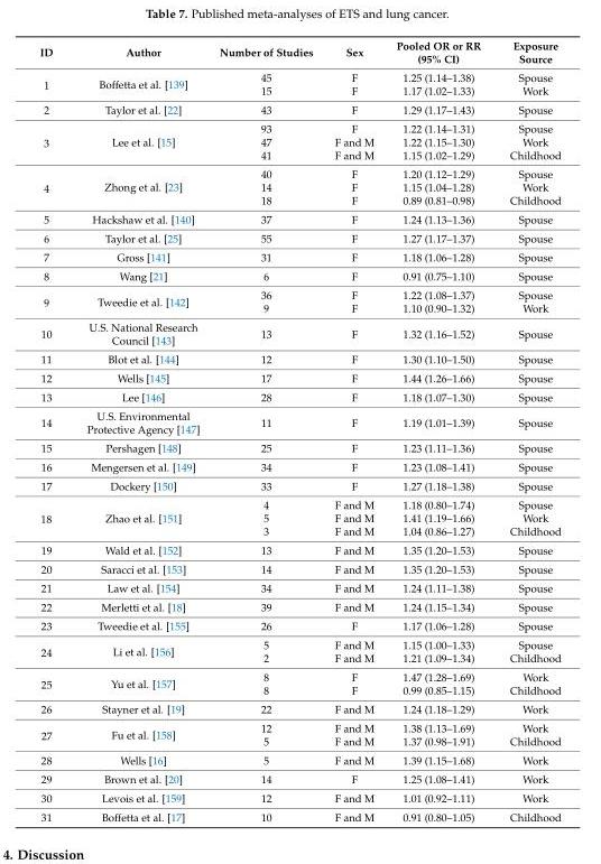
<table><thead><tr><td>ID</td><td>Author</td><td>Number of Studies</td><td>Sex</td><td>Pooled OR or RR (95% CI)</td><td>Exposure Source</td></tr></thead><tbody><tr><td rowspan="2">1</td><td rowspan="2">Boffetta et al. [139]</td><td>45</td><td>F</td><td>1.25 (1.14–1.38)</td><td>Spouse</td></tr><tr><td>15</td><td>F</td><td>1.17 (1.02–1.33)</td><td>Work</td></tr><tr><td>2</td><td>Taylor et al. [22]</td><td>43</td><td>F</td><td>1.29 (1.17–1.43)</td><td>Spouse</td></tr><tr><td rowspan="3">3</td><td rowspan="3">Lee et al. [15]</td><td>93</td><td>F</td><td>1.22 (1.14–1.31)</td><td>Spouse</td></tr><tr><td>47</td><td>F and M</td><td>1.22 (1.15–1.30)</td><td>Work</td></tr><tr><td>41</td><td>F and M</td><td>1.15 (1.02–1.29)</td><td>Childhood</td></tr><tr><td rowspan="3">4</td><td rowspan="3">Zhong et al. [23]</td><td>40</td><td>F</td><td>1.20 (1.12–1.29)</td><td>Spouse</td></tr><tr><td>14</td><td>F</td><td>1.15 (1.04–1.28)</td><td>Work</td></tr><tr><td>18</td><td>F</td><td>0.89 (0.81–0.98)</td><td>Childhood</td></tr><tr><td>5</td><td>Hackshaw et al. [140]</td><td>37</td><td>F</td><td>1.24 (1.13–1.36)</td><td>Spouse</td></tr><tr><td>6</td><td>Taylor et al. [25]</td><td>55</td><td>F</td><td>1.27 (1.17–1.37)</td><td>Spouse</td></tr><tr><td>7</td><td>Gross [141]</td><td>31</td><td>F</td><td>1.18 (1.06–1.28)</td><td>Spouse</td></tr><tr><td>8</td><td>Wang [21]</td><td>6</td><td>F</td><td>0.91 (0.75–1.10)</td><td>Spouse</td></tr><tr><td rowspan="2">9</td><td rowspan="2">Tweedie et al. [142]</td><td>36</td><td>F</td><td>1.22 (1.08–1.37)</td><td>Spouse</td></tr><tr><td>9</td><td>F</td><td>1.10 (0.90–1.32)</td><td>Work</td></tr><tr><td>10</td><td>U.S. National Research Council [143]</td><td>13</td><td>F</td><td>1.32 (1.16–1.52)</td><td>Spouse</td></tr><tr><td>11</td><td>Blot et al. [144]</td><td>12</td><td>F</td><td>1.30 (1.10–1.50)</td><td>Spouse</td></tr><tr><td>12</td><td>Wells [145]</td><td>17</td><td>F</td><td>1.44 (1.26–1.66)</td><td>Spouse</td></tr><tr><td>13</td><td>Lee [146]</td><td>28</td><td>F</td><td>1.18 (1.07–1.30)</td><td>Spouse</td></tr><tr><td>14</td><td>U.S. Environmental Protective Agency [147]</td><td>11</td><td>F</td><td>1.19 (1.01–1.39)</td><td>Spouse</td></tr><tr><td>15</td><td>Pershagen [148]</td><td>25</td><td>F</td><td>1.23 (1.11–1.36)</td><td>Spouse</td></tr><tr><td>16</td><td>Mengersen et al. [149]</td><td>34</td><td>F</td><td>1.23 (1.08–1.41)</td><td>Spouse</td></tr><tr><td>17</td><td>Dockery [150]</td><td>33</td><td>F</td><td>1.27 (1.18–1.38)</td><td>Spouse</td></tr><tr><td rowspan="3">18</td><td rowspan="3">Zhao et al. [151]</td><td>4</td><td>F and M</td><td>1.18 (0.80–1.74)</td><td>Spouse</td></tr><tr><td>5</td><td>F and M</td><td>1.41 (1.19–1.66)</td><td>Work</td></tr><tr><td>3</td><td>F and M</td><td>1.04 (0.86–1.27)</td><td>Childhood</td></tr><tr><td>19</td><td>Wald et al. [152]</td><td>13</td><td>F and M</td><td>1.35 (1.20–1.53)</td><td>Spouse</td></tr><tr><td>20</td><td>Saracci et al. [153]</td><td>14</td><td>F and M</td><td>1.35 (1.20–1.53)</td><td>Spouse</td></tr><tr><td>21</td><td>Law et al. [154]</td><td>34</td><td>F and M</td><td>1.24 (1.11–1.38)</td><td>Spouse</td></tr><tr><td>22</td><td>Merletti et al. [18]</td><td>39</td><td>F and M</td><td>1.24 (1.15–1.34)</td><td>Spouse</td></tr><tr><td>23</td><td>Tweedie et al. [155]</td><td>26</td><td>F</td><td>1.17 (1.06–1.28)</td><td>Spouse</td></tr><tr><td rowspan="2">24</td><td rowspan="2">Li et al. [156]</td><td>5</td><td>F and M</td><td>1.15 (1.00–1.33)</td><td>Spouse</td></tr><tr><td>2</td><td>F and M</td><td>1.21 (1.09–1.34)</td><td>Childhood</td></tr><tr><td rowspan="2">25</td><td rowspan="2">Yu et al. [157]</td><td>8</td><td>F</td><td>1.47 (1.28–1.69)</td><td>Work</td></tr><tr><td>8</td><td>F</td><td>0.99 (0.85–1.15)</td><td>Childhood</td></tr><tr><td>26</td><td>Stayner et al. [19]</td><td>22</td><td>F and M</td><td>1.24 (1.18–1.29)</td><td>Work</td></tr><tr><td rowspan="2">27</td><td rowspan="2">Fu et al. [158]</td><td>12</td><td>F and M</td><td>1.38 (1.13–1.69)</td><td>Work</td></tr><tr><td>5</td><td>F and M</td><td>1.37 (0.98–1.91)</td><td>Childhood</td></tr><tr><td>28</td><td>Wells [16]</td><td>5</td><td>F and M</td><td>1.39 (1.15–1.68)</td><td>Work</td></tr><tr><td>29</td><td>Brown et al. [20]</td><td>14</td><td>F</td><td>1.25 (1.08–1.41)</td><td>Work</td></tr><tr><td>30</td><td>Levois et al. [159]</td><td>12</td><td>F and M</td><td>1.01 (0.92–1.11)</td><td>Work</td></tr><tr><td>31</td><td>Boffetta et al. [17]</td><td>10</td><td>F and M</td><td>0.91 (0.80–1.05)</td><td>Childhood</td></tr></tbody></table>